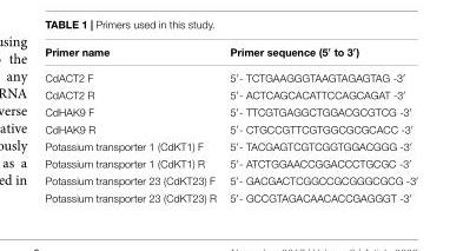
<table><thead><tr><td>Primer name</td><td>Primer sequence (5′ to 3′)</td></tr></thead><tbody><tr><td>CdACT2 F</td><td>5′- TCTGAAGGGTAAGTAGAGTAG -3′</td></tr><tr><td>CdACT2 R</td><td>5′- ACTCAGCACATTCCAGCAGAT -3′</td></tr><tr><td>CdHAK9 F</td><td>5′- TTCGTGAGGCTGGACGCGTCG -3′</td></tr><tr><td>CdHAK9 R</td><td>5′- CTGCCGTTCGTGGCGCGCACC -3′</td></tr><tr><td>Potassium transporter 1 (CdKT1) F</td><td>5′- TACGAGTCGTCGGTGGACGGG -3′</td></tr><tr><td>Potassium transporter 1 (CdKT1) R</td><td>5′- ATCTGGAACCGGACCCTGCGC -3′</td></tr><tr><td>Potassium transporter 23 (CdKT23) F</td><td>5′- GACGACTCGGCCGCGGGCGCG -3′</td></tr><tr><td>Potassium transporter 23 (CdKT23) R</td><td>5′- GCCGTAGACAACACCGAGGGT -3′</td></tr></tbody></table>